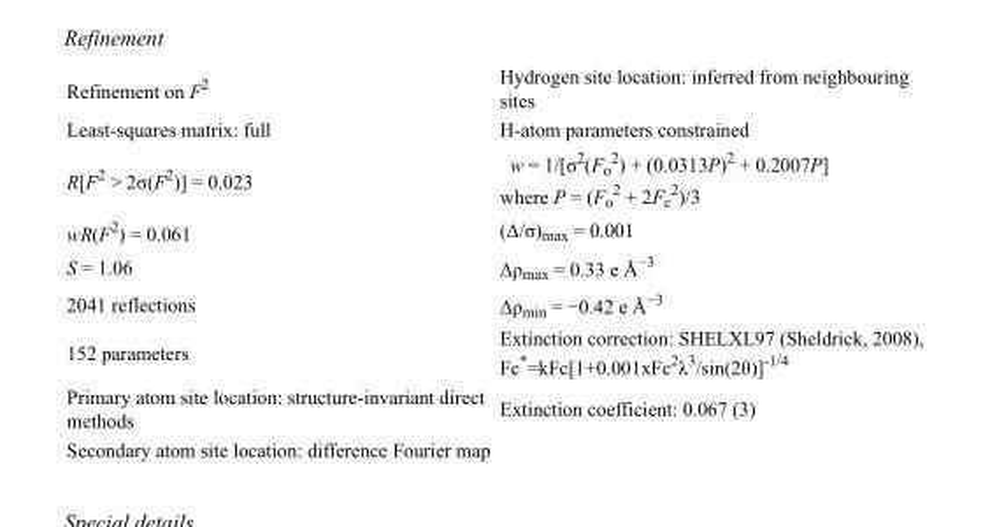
<table><tbody><tr><td>Refinement on F<sup>2</sup></td><td>Hydrogen site location: inferred from neighbouring sites</td></tr><tr><td>Least-squares matrix: full</td><td>H-atom parameters constrained</td></tr><tr><td>R[F<sup>2</sup> &gt; 2σ(F<sup>2</sup>)] = 0.023</td><td>w = 1/[σ<sup>2</sup>(F<sub>o</sub> <sup>2</sup>) + (0.0313P)<sup>2</sup> + 0.2007P] where P = (F<sub>o</sub> <sup>2</sup> + 2F<sub>c</sub> <sup>2</sup>)/3</td></tr><tr><td>wR(F<sup>2</sup>) = 0.061</td><td>(Δ/σ)<sub>max</sub> = 0.001</td></tr><tr><td>S = 1.06</td><td>Δρ<sub>max</sub> = 0.33 e Å<sup>−3</sup></td></tr><tr><td>2041 reflections</td><td>Δρ<sub>min</sub> = −0.42 e Å<sup>−3</sup></td></tr><tr><td>152 parameters</td><td>Extinction correction: SHELXL97 (Sheldrick, 2008), Fc*=kFc[1+0.001xFc<sup>2</sup>λ<sup>3</sup>/sin(2θ)]<sup>-1/4</sup></td></tr><tr><td>Primary atom site location: structure-invariant direct methods</td><td>Extinction coefficient: 0.067 (3)</td></tr><tr><td>Secondary atom site location: difference Fourier map</td><td></td></tr></tbody></table>